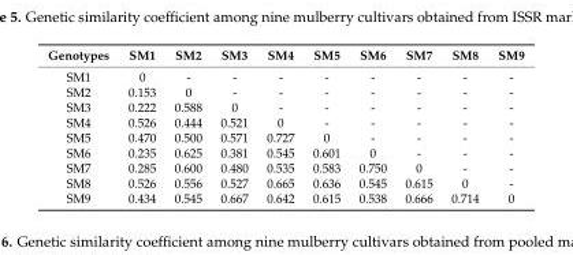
<table><thead><tr><td>Genotypes</td><td>SM1</td><td>SM2</td><td>SM3</td><td>SM4</td><td>SM5</td><td>SM6</td><td>SM7</td><td>SM8</td><td>SM9</td></tr></thead><tbody><tr><td>SM1</td><td>0</td><td>-</td><td>-</td><td>-</td><td>-</td><td>-</td><td>-</td><td>-</td><td>-</td></tr><tr><td>SM2</td><td>0.153</td><td>0</td><td>-</td><td>-</td><td>-</td><td>-</td><td>-</td><td>-</td><td>-</td></tr><tr><td>SM3</td><td>0.222</td><td>0.588</td><td>0</td><td>-</td><td>-</td><td>-</td><td>-</td><td>-</td><td>-</td></tr><tr><td>SM4</td><td>0.526</td><td>0.444</td><td>0.521</td><td>0</td><td>-</td><td>-</td><td>-</td><td>-</td><td>-</td></tr><tr><td>SM5</td><td>0.470</td><td>0.500</td><td>0.571</td><td>0.727</td><td>0</td><td>-</td><td>-</td><td>-</td><td>-</td></tr><tr><td>SM6</td><td>0.235</td><td>0.625</td><td>0.381</td><td>0.545</td><td>0.601</td><td>0</td><td>-</td><td>-</td><td>-</td></tr><tr><td>SM7</td><td>0.285</td><td>0.600</td><td>0.480</td><td>0.535</td><td>0.583</td><td>0.750</td><td>0</td><td>-</td><td>-</td></tr><tr><td>SM8</td><td>0.526</td><td>0.556</td><td>0.527</td><td>0.665</td><td>0.636</td><td>0.545</td><td>0.615</td><td>0</td><td>-</td></tr><tr><td>SM9</td><td>0.434</td><td>0.545</td><td>0.667</td><td>0.642</td><td>0.615</td><td>0.538</td><td>0.666</td><td>0.714</td><td>0</td></tr></tbody></table>